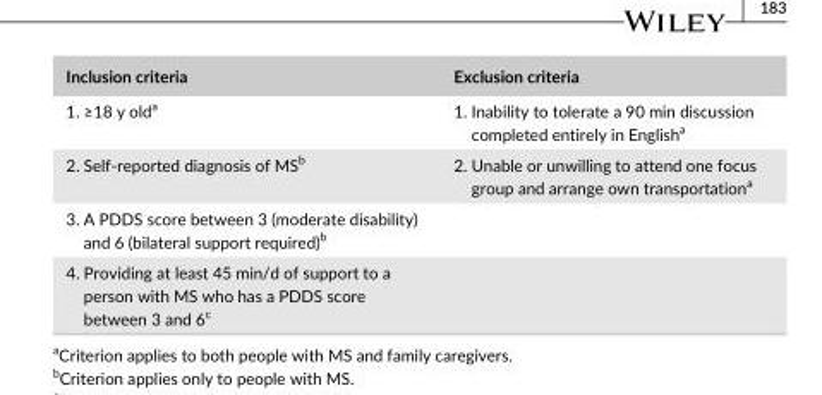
<table><thead><tr><td>Inclusion criteria</td><td>Exclusion criteria</td></tr></thead><tbody><tr><td>1. ≥18 y old<sup>a</sup></td><td>1. Inability to tolerate a 90 min discussion completed entirely in English<sup>a</sup></td></tr><tr><td>2. Self- reported diagnosis of MS<sup>b</sup></td><td>2. Unable or unwilling to attend one focus group and arrange own transportation<sup>a</sup></td></tr><tr><td colspan="2">3. A PDDS score between 3 (moderate disability) and 6 (bilateral support required)<sup>b</sup></td></tr><tr><td>4. Providing at least 45 min/d of support to a person with MS who has a PDDS score between 3 and 6<sup>c</sup></td><td></td></tr></tbody></table>